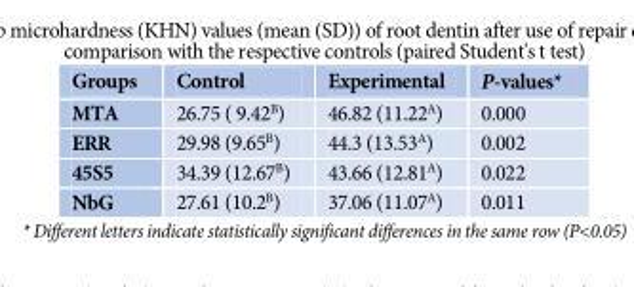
<table><thead><tr><td>Groups</td><td>Control</td><td>Experimental</td><td>P-values*</td></tr></thead><tbody><tr><td>MTA</td><td>26.75 ( 9.42<sup>B</sup>)</td><td>46.82 (11.22<sup>A</sup>)</td><td>0.000</td></tr><tr><td>ERR</td><td>29.98 (9.65<sup>B</sup>)</td><td>44.3 (13.53<sup>A</sup>)</td><td>0.002</td></tr><tr><td>45S5</td><td>34.39 (12.67<sup>B</sup>)</td><td>43.66 (12.81<sup>A</sup>)</td><td>0.022</td></tr><tr><td>NbG</td><td>27.61 (10.2<sup>B</sup>)</td><td>37.06 (11.07<sup>A</sup>)</td><td>0.011</td></tr></tbody></table>